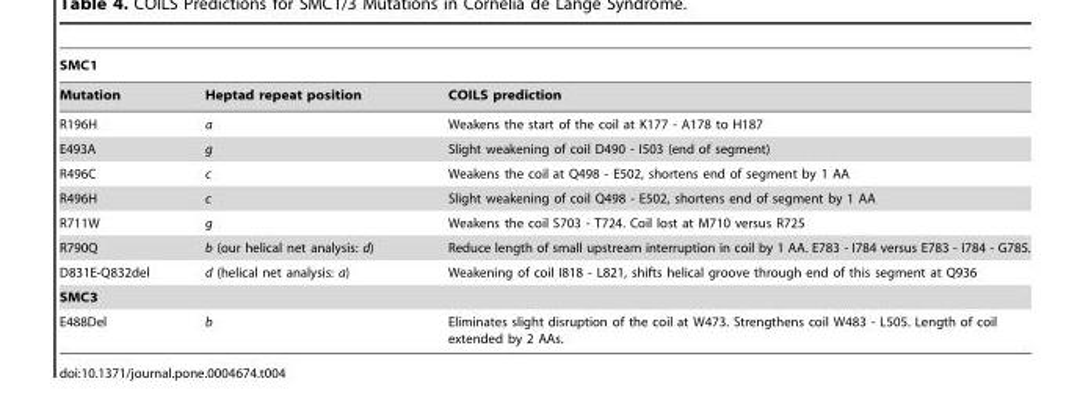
<table><thead><tr><td colspan="3">SMC1</td></tr><tr><td>Mutation</td><td>Heptad repeat position</td><td>COILS prediction</td></tr></thead><tbody><tr><td>R196H</td><td>a</td><td>Weakens the start of the coil at K177 - A178 to H187</td></tr><tr><td>E493A</td><td>g</td><td>Slight weakening of coil D490 - I503 (end of segment)</td></tr><tr><td>R496C</td><td>c</td><td>Weakens the coil at Q498 - E502, shortens end of segment by 1 AA</td></tr><tr><td>R496H</td><td>c</td><td>Slight weakening of coil Q498 - E502, shortens end of segment by 1 AA</td></tr><tr><td>R711W</td><td>g</td><td>Weakens the coil S703 - T724. Coil lost at M710 versus R725</td></tr><tr><td>R790Q</td><td>b (our helical net analysis: d)</td><td>Reduce length of small upstream interruption in coil by 1 AA. E783 - I784 versus E783 - I784 - G785.</td></tr><tr><td>D831E-Q832del</td><td>d (helical net analysis: a)</td><td>Weakening of coil I818 - L821, shifts helical groove through end of this segment at Q936</td></tr><tr><td colspan="3">SMC3</td></tr><tr><td>E488Del</td><td>b</td><td>Eliminates slight disruption of the coil at W473. Strengthens coil W483 - L505. Length of coil extended by 2 AAs.</td></tr></tbody></table>